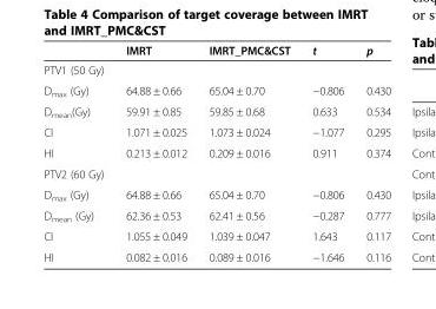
<table><thead><tr><td></td><td>IMRT</td><td>IMRT_PMC&amp;CST</td><td>t</td><td>p</td></tr></thead><tbody><tr><td colspan="5">PTV1 (50 Gy)</td></tr><tr><td>D<sub>max</sub> (Gy)</td><td>64.88 ± 0.66</td><td>65.04 ± 0.70</td><td>−0.806</td><td>0.430</td></tr><tr><td>D<sub>mean</sub>(Gy)</td><td>59.91 ± 0.85</td><td>59.85 ± 0.68</td><td>0.633</td><td>0.534</td></tr><tr><td>CI</td><td>1.071 ± 0.025</td><td>1.073 ± 0.024</td><td>−1.077</td><td>0.295</td></tr><tr><td>HI</td><td>0.213 ± 0.012</td><td>0.209 ± 0.016</td><td>0.911</td><td>0.374</td></tr><tr><td colspan="5">PTV2 (60 Gy)</td></tr><tr><td>D<sub>max</sub> (Gy)</td><td>64.88 ± 0.66</td><td>65.04 ± 0.70</td><td>−0.806</td><td>0.430</td></tr><tr><td>D<sub>mean</sub> (Gy)</td><td>62.36 ± 0.53</td><td>62.41 ± 0.56</td><td>−0.287</td><td>0.777</td></tr><tr><td>CI</td><td>1.055 ± 0.049</td><td>1.039 ± 0.047</td><td>1.643</td><td>0.117</td></tr><tr><td>HI</td><td>0.082 ± 0.016</td><td>0.089 ± 0.016</td><td>−1.646</td><td>0.116</td></tr></tbody></table>